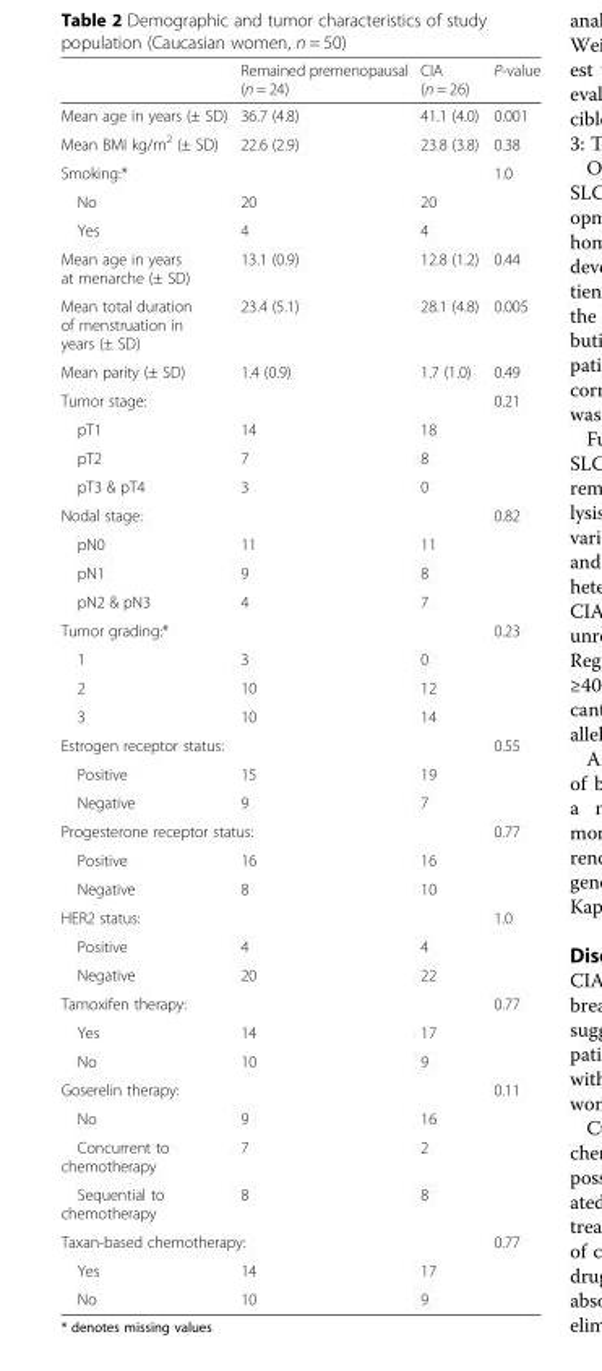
<table><thead><tr><td></td><td>Remained premenopausal (n = 24)</td><td>CIA (n = 26)</td><td>P-value</td></tr></thead><tbody><tr><td>Mean age in years (± SD)</td><td>36.7 (4.8)</td><td>41.1 (4.0)</td><td>0.001</td></tr><tr><td>Mean BMI kg/m<sup>2</sup> (± SD)</td><td>22.6 (2.9)</td><td>23.8 (3.8)</td><td>0.38</td></tr><tr><td colspan="3">Smoking:*</td><td>1.0</td></tr><tr><td>No</td><td>20</td><td>20</td><td></td></tr><tr><td>Yes</td><td>4</td><td>4</td><td></td></tr><tr><td>Mean age in years at menarche (± SD)</td><td>13.1 (0.9)</td><td>12.8 (1.2)</td><td>0.44</td></tr><tr><td>Mean total duration of menstruation in years (± SD)</td><td>23.4 (5.1)</td><td>28.1 (4.8)</td><td>0.005</td></tr><tr><td>Mean parity (± SD)</td><td>1.4 (0.9)</td><td>1.7 (1.0)</td><td>0.49</td></tr><tr><td colspan="3">Tumor stage:</td><td>0.21</td></tr><tr><td>pT1</td><td>14</td><td>18</td><td></td></tr><tr><td>pT2</td><td>7</td><td>8</td><td></td></tr><tr><td>pT3 &amp; pT4</td><td>3</td><td>0</td><td></td></tr><tr><td colspan="3">Nodal stage:</td><td>0.82</td></tr><tr><td>pN0</td><td>11</td><td>11</td><td></td></tr><tr><td>pN1</td><td>9</td><td>8</td><td></td></tr><tr><td>pN2 &amp; pN3</td><td>4</td><td>7</td><td></td></tr><tr><td colspan="3">Tumor grading:*</td><td>0.23</td></tr><tr><td>1</td><td>3</td><td>0</td><td></td></tr><tr><td>2</td><td>10</td><td>12</td><td></td></tr><tr><td>3</td><td>10</td><td>14</td><td></td></tr><tr><td colspan="3">Estrogen receptor status:</td><td>0.55</td></tr><tr><td>Positive</td><td>15</td><td>19</td><td></td></tr><tr><td>Negative</td><td>9</td><td>7</td><td></td></tr><tr><td colspan="3">Progesterone receptor status:</td><td>0.77</td></tr><tr><td>Positive</td><td>16</td><td>16</td><td></td></tr><tr><td>Negative</td><td>8</td><td>10</td><td></td></tr><tr><td colspan="3">HER2 status:</td><td>1.0</td></tr><tr><td>Positive</td><td>4</td><td>4</td><td></td></tr><tr><td>Negative</td><td>20</td><td>22</td><td></td></tr><tr><td colspan="3">Tamoxifen therapy:</td><td>0.77</td></tr><tr><td>Yes</td><td>14</td><td>17</td><td></td></tr><tr><td>No</td><td>10</td><td>9</td><td></td></tr><tr><td colspan="3">Goserelin therapy:</td><td>0.11</td></tr><tr><td>No</td><td>9</td><td>16</td><td></td></tr><tr><td>Concurrent to chemotherapy</td><td>7</td><td>2</td><td></td></tr><tr><td>Sequential to chemotherapy</td><td>8</td><td>8</td><td></td></tr><tr><td colspan="3">Taxan-based chemotherapy:</td><td>0.77</td></tr><tr><td>Yes</td><td>14</td><td>17</td><td></td></tr><tr><td>No</td><td>10</td><td>9</td><td></td></tr></tbody></table>